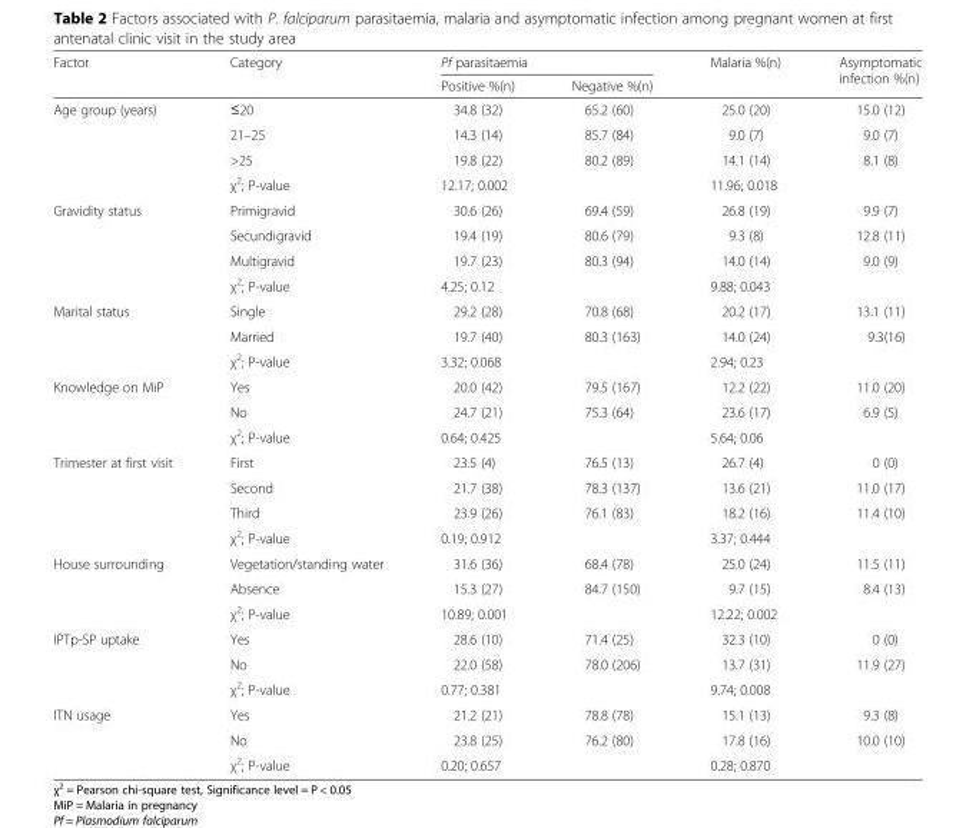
<table><thead><tr><td rowspan="2">Factor</td><td rowspan="2">Category</td><td colspan="2">Pf parasitaemia</td><td rowspan="2">Malaria %(n)</td><td rowspan="2">Asymptomatic infection %(n)</td></tr><tr><td>Positive %(n)</td><td>Negative %(n)</td></tr></thead><tbody><tr><td rowspan="4">Age group (years)</td><td>≤20</td><td>34.8 (32)</td><td>65.2 (60)</td><td>25.0 (20)</td><td>15.0 (12)</td></tr><tr><td>21–25</td><td>14.3 (14)</td><td>85.7 (84)</td><td>9.0 (7)</td><td>9.0 (7)</td></tr><tr><td>&gt;25</td><td>19.8 (22)</td><td>80.2 (89)</td><td>14.1 (14)</td><td>8.1 (8)</td></tr><tr><td>χ<sup>2</sup>; P-value</td><td colspan="2">12.17; 0.002</td><td colspan="2">11.96; 0.018</td></tr><tr><td rowspan="4">Gravidity status</td><td>Primigravid</td><td>30.6 (26)</td><td>69.4 (59)</td><td>26.8 (19)</td><td>9.9 (7)</td></tr><tr><td>Secundigravid</td><td>19.4 (19)</td><td>80.6 (79)</td><td>9.3 (8)</td><td>12.8 (11)</td></tr><tr><td>Multigravid</td><td>19.7 (23)</td><td>80.3 (94)</td><td>14.0 (14)</td><td>9.0 (9)</td></tr><tr><td>χ<sup>2</sup>; P-value</td><td colspan="2">4.25; 0.12</td><td colspan="2">9.88; 0.043</td></tr><tr><td rowspan="3">Marital status</td><td>Single</td><td>29.2 (28)</td><td>70.8 (68)</td><td>20.2 (17)</td><td>13.1 (11)</td></tr><tr><td>Married</td><td>19.7 (40)</td><td>80.3 (163)</td><td>14.0 (24)</td><td>9.3(16)</td></tr><tr><td>χ<sup>2</sup>; P-value</td><td colspan="2">3.32; 0.068</td><td colspan="2">2.94; 0.23</td></tr><tr><td rowspan="3">Knowledge on MiP</td><td>Yes</td><td>20.0 (42)</td><td>79.5 (167)</td><td>12.2 (22)</td><td>11.0 (20)</td></tr><tr><td>No</td><td>24.7 (21)</td><td>75.3 (64)</td><td>23.6 (17)</td><td>6.9 (5)</td></tr><tr><td>χ<sup>2</sup>; P-value</td><td colspan="2">0.64; 0.425</td><td colspan="2">5.64; 0.06</td></tr><tr><td rowspan="4">Trimester at first visit</td><td>First</td><td>23.5 (4)</td><td>76.5 (13)</td><td>26.7 (4)</td><td>0 (0)</td></tr><tr><td>Second</td><td>21.7 (38)</td><td>78.3 (137)</td><td>13.6 (21)</td><td>11.0 (17)</td></tr><tr><td>Third</td><td>23.9 (26)</td><td>76.1 (83)</td><td>18.2 (16)</td><td>11.4 (10)</td></tr><tr><td>χ<sup>2</sup>; P-value</td><td colspan="2">0.19; 0.912</td><td colspan="2">3.37; 0.444</td></tr><tr><td rowspan="3">House surrounding</td><td>Vegetation/standing water</td><td>31.6 (36)</td><td>68.4 (78)</td><td>25.0 (24)</td><td>11.5 (11)</td></tr><tr><td>Absence</td><td>15.3 (27)</td><td>84.7 (150)</td><td>9.7 (15)</td><td>8.4 (13)</td></tr><tr><td>χ<sup>2</sup>; P-value</td><td colspan="2">10.89; 0.001</td><td colspan="2">12.22; 0.002</td></tr><tr><td rowspan="3">IPTp-SP uptake</td><td>Yes</td><td>28.6 (10)</td><td>71.4 (25)</td><td>32.3 (10)</td><td>0 (0)</td></tr><tr><td>No</td><td>22.0 (58)</td><td>78.0 (206)</td><td>13.7 (31)</td><td>11.9 (27)</td></tr><tr><td>χ<sup>2</sup>; P-value</td><td colspan="2">0.77; 0.381</td><td colspan="2">9.74; 0.008</td></tr><tr><td rowspan="3">ITN usage</td><td>Yes</td><td>21.2 (21)</td><td>78.8 (78)</td><td>15.1 (13)</td><td>9.3 (8)</td></tr><tr><td>No</td><td>23.8 (25)</td><td>76.2 (80)</td><td>17.8 (16)</td><td>10.0 (10)</td></tr><tr><td>χ<sup>2</sup>; P-value</td><td colspan="2">0.20; 0.657</td><td colspan="2">0.28; 0.870</td></tr></tbody></table>